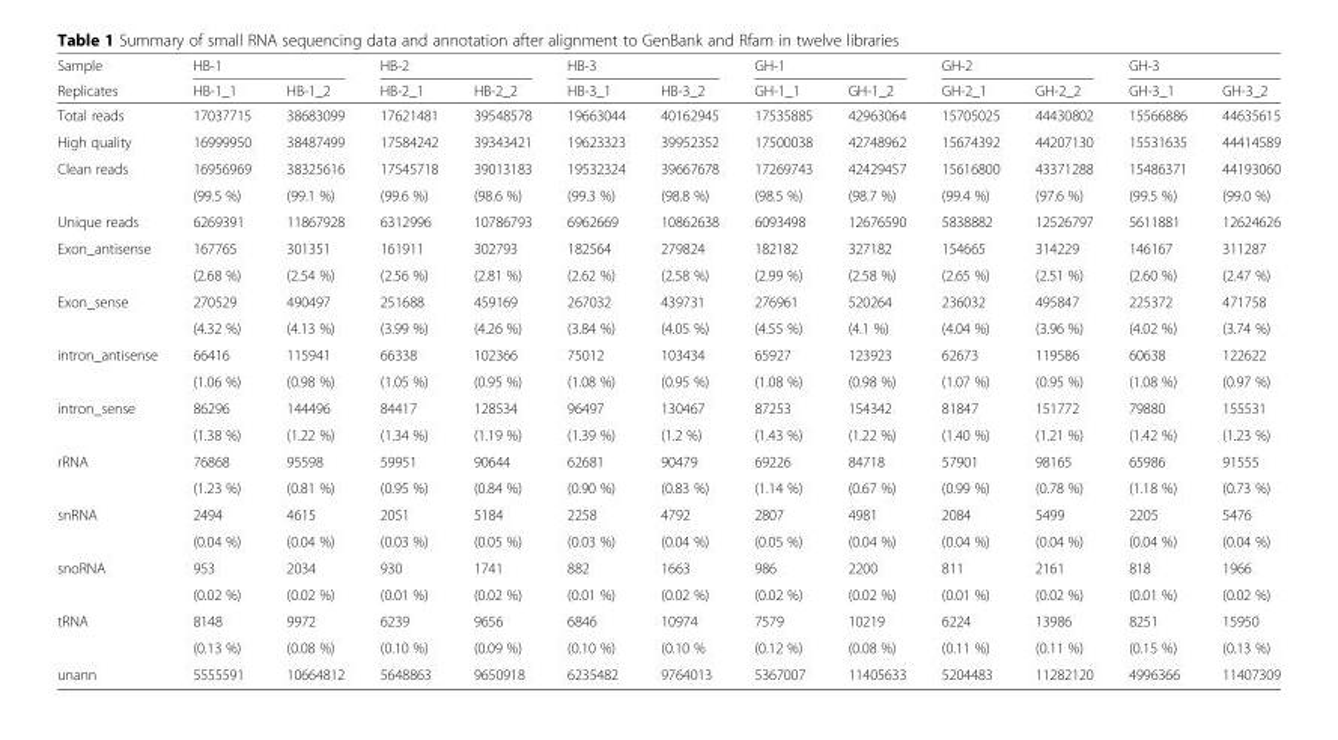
<table><thead><tr><td rowspan="2">Sample Replicates</td><td colspan="2">HB-1</td><td colspan="2">HB-2</td><td colspan="2">HB-3</td><td colspan="2">GH-1</td><td colspan="2">GH-2</td><td colspan="2">GH-3</td></tr><tr><td>HB-1_1</td><td>HB-1_2</td><td>HB-2_1</td><td>HB-2_2</td><td>HB-3_1</td><td>HB-3_2</td><td>GH-1_1</td><td>GH-1_2</td><td>GH-2_1</td><td>GH-2_2</td><td>GH-3_1</td><td>GH-3_2</td></tr></thead><tbody><tr><td>Total reads</td><td>17037715</td><td>38683099</td><td>17621481</td><td>39548578</td><td>19663044</td><td>40162945</td><td>17535885</td><td>42963064</td><td>15705025</td><td>44430802</td><td>15566886</td><td>44635615</td></tr><tr><td>High quality</td><td>16999950</td><td>38487499</td><td>17584242</td><td>39343421</td><td>19623323</td><td>39952352</td><td>17500038</td><td>42748962</td><td>15674392</td><td>44207130</td><td>15531635</td><td>44414589</td></tr><tr><td rowspan="2">Clean reads</td><td>16956969</td><td>38325616</td><td>17545718</td><td>39013183</td><td>19532324</td><td>39667678</td><td>17269743</td><td>42429457</td><td>15616800</td><td>43371288</td><td>15486371</td><td>44193060</td></tr><tr><td>(99.5 %)</td><td>(99.1 %)</td><td>(99.6 %)</td><td>(98.6 %)</td><td>(99.3 %)</td><td>(98.8 %)</td><td>(98.5 %)</td><td>(98.7 %)</td><td>(99.4 %)</td><td>(97.6 %)</td><td>(99.5 %)</td><td>(99.0 %)</td></tr><tr><td>Unique reads</td><td>6269391</td><td>11867928</td><td>6312996</td><td>10786793</td><td>6962669</td><td>10862638</td><td>6093498</td><td>12676590</td><td>5838882</td><td>12526797</td><td>5611881</td><td>12624626</td></tr><tr><td rowspan="2">Exon_antisense</td><td>167765</td><td>301351</td><td>161911</td><td>302793</td><td>182564</td><td>279824</td><td>182182</td><td>327182</td><td>154665</td><td>314229</td><td>146167</td><td>311287</td></tr><tr><td>(2.68 %)</td><td>(2.54 %)</td><td>(2.56 %)</td><td>(2.81 %)</td><td>(2.62 %)</td><td>(2.58 %)</td><td>(2.99 %)</td><td>(2.58 %)</td><td>(2.65 %)</td><td>(2.51 %)</td><td>(2.60 %)</td><td>(2.47 %)</td></tr><tr><td rowspan="2">Exon_sense</td><td>270529</td><td>490497</td><td>251688</td><td>459169</td><td>267032</td><td>439731</td><td>276961</td><td>520264</td><td>236032</td><td>495847</td><td>225372</td><td>471758</td></tr><tr><td>(4.32 %)</td><td>(4.13 %)</td><td>(3.99 %)</td><td>(4.26 %)</td><td>(3.84 %)</td><td>(4.05 %)</td><td>(4.55 %)</td><td>(4.1 %)</td><td>(4.04 %)</td><td>(3.96 %)</td><td>(4.02 %)</td><td>(3.74 %)</td></tr><tr><td rowspan="2">intron_antisense</td><td>66416</td><td>115941</td><td>66338</td><td>102366</td><td>75012</td><td>103434</td><td>65927</td><td>123923</td><td>62673</td><td>119586</td><td>60638</td><td>122622</td></tr><tr><td>(1.06 %)</td><td>(0.98 %)</td><td>(1.05 %)</td><td>(0.95 %)</td><td>(1.08 %)</td><td>(0.95 %)</td><td>(1.08 %)</td><td>(0.98 %)</td><td>(1.07 %)</td><td>(0.95 %)</td><td>(1.08 %)</td><td>(0.97 %)</td></tr><tr><td rowspan="2">intron_sense</td><td>86296</td><td>144496</td><td>84417</td><td>128534</td><td>96497</td><td>130467</td><td>87253</td><td>154342</td><td>81847</td><td>151772</td><td>79880</td><td>155531</td></tr><tr><td>(1.38 %)</td><td>(1.22 %)</td><td>(1.34 %)</td><td>(1.19 %)</td><td>(1.39 %)</td><td>(1.2 %)</td><td>(1.43 %)</td><td>(1.22 %)</td><td>(1.40 %)</td><td>(1.21 %)</td><td>(1.42 %)</td><td>(1.23 %)</td></tr><tr><td rowspan="2">rRNA</td><td>76868</td><td>95598</td><td>59951</td><td>90644</td><td>62681</td><td>90479</td><td>69226</td><td>84718</td><td>57901</td><td>98165</td><td>65986</td><td>91555</td></tr><tr><td>(1.23 %)</td><td>(0.81 %)</td><td>(0.95 %)</td><td>(0.84 %)</td><td>(0.90 %)</td><td>(0.83 %)</td><td>(1.14 %)</td><td>(0.67 %)</td><td>(0.99 %)</td><td>(0.78 %)</td><td>(1.18 %)</td><td>(0.73 %)</td></tr><tr><td rowspan="2">snRNA</td><td>2494</td><td>4615</td><td>2051</td><td>5184</td><td>2258</td><td>4792</td><td>2807</td><td>4981</td><td>2084</td><td>5499</td><td>2205</td><td>5476</td></tr><tr><td>(0.04 %)</td><td>(0.04 %)</td><td>(0.03 %)</td><td>(0.05 %)</td><td>(0.03 %)</td><td>(0.04 %)</td><td>(0.05 %)</td><td>(0.04 %)</td><td>(0.04 %)</td><td>(0.04 %)</td><td>(0.04 %)</td><td>(0.04 %)</td></tr><tr><td rowspan="2">snoRNA</td><td>953</td><td>2034</td><td>930</td><td>1741</td><td>882</td><td>1663</td><td>986</td><td>2200</td><td>811</td><td>2161</td><td>818</td><td>1966</td></tr><tr><td>(0.02 %)</td><td>(0.02 %)</td><td>(0.01 %)</td><td>(0.02 %)</td><td>(0.01 %)</td><td>(0.02 %)</td><td>(0.02 %)</td><td>(0.02 %)</td><td>(0.01 %)</td><td>(0.02 %)</td><td>(0.01 %)</td><td>(0.02 %)</td></tr><tr><td rowspan="2">tRNA</td><td>8148</td><td>9972</td><td>6239</td><td>9656</td><td>6846</td><td>10974</td><td>7579</td><td>10219</td><td>6224</td><td>13986</td><td>8251</td><td>15950</td></tr><tr><td>(0.13 %)</td><td>(0.08 %)</td><td>(0.10 %)</td><td>(0.09 %)</td><td>(0.10 %)</td><td>(0.10 %</td><td>(0.12 %)</td><td>(0.08 %)</td><td>(0.11 %)</td><td>(0.11 %)</td><td>(0.15 %)</td><td>(0.13 %)</td></tr><tr><td>unann</td><td>5555591</td><td>10664812</td><td>5648863</td><td>9650918</td><td>6235482</td><td>9764013</td><td>5367007</td><td>11405633</td><td>5204483</td><td>11282120</td><td>4996366</td><td>11407309</td></tr></tbody></table>